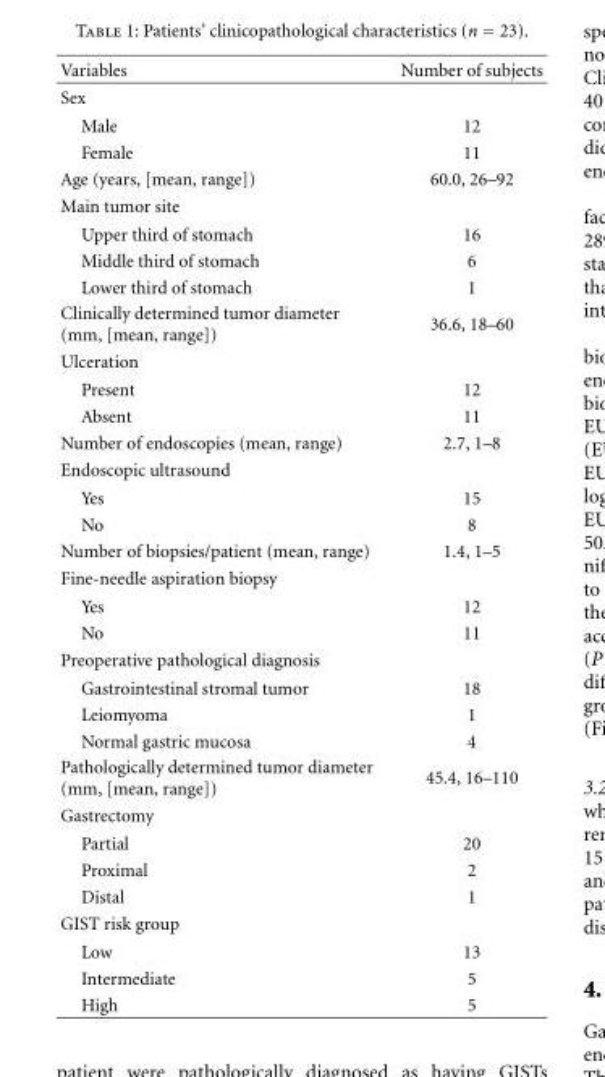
<table><thead><tr><td>Variables</td><td>Number of subjects</td></tr></thead><tbody><tr><td colspan="2">Sex</td></tr><tr><td>Male</td><td>12</td></tr><tr><td>Female</td><td>11</td></tr><tr><td>Age (years, [mean, range])</td><td>60.0, 26–92</td></tr><tr><td colspan="2">Main tumor site</td></tr><tr><td>Upper third of stomach</td><td>16</td></tr><tr><td>Middle third of stomach</td><td>6</td></tr><tr><td>Lower third of stomach</td><td>1</td></tr><tr><td>Clinically determined tumor diameter (mm, [mean, range])</td><td>36.6, 18–60</td></tr><tr><td colspan="2">Ulceration</td></tr><tr><td>Present</td><td>12</td></tr><tr><td>Absent</td><td>11</td></tr><tr><td>Number of endoscopies (mean, range)</td><td>2.7, 1–8</td></tr><tr><td colspan="2">Endoscopic ultrasound</td></tr><tr><td>Yes</td><td>15</td></tr><tr><td>No</td><td>8</td></tr><tr><td>Number of biopsies/patient (mean, range)</td><td>1.4, 1–5</td></tr><tr><td colspan="2">Fine-needle aspiration biopsy</td></tr><tr><td>Yes</td><td>12</td></tr><tr><td>No</td><td>11</td></tr><tr><td colspan="2">Preoperative pathological diagnosis</td></tr><tr><td>Gastrointestinal stromal tumor</td><td>18</td></tr><tr><td>Leiomyoma</td><td>1</td></tr><tr><td>Normal gastric mucosa</td><td>4</td></tr><tr><td>Pathologically determined tumor diameter (mm, [mean, range])</td><td>45.4, 16–110</td></tr><tr><td colspan="2">Gastrectomy</td></tr><tr><td>Partial</td><td>20</td></tr><tr><td>Proximal</td><td>2</td></tr><tr><td>Distal</td><td>1</td></tr><tr><td colspan="2">GIST risk group</td></tr><tr><td>Low</td><td>13</td></tr><tr><td>Intermediate</td><td>5</td></tr><tr><td>High</td><td>5</td></tr></tbody></table>